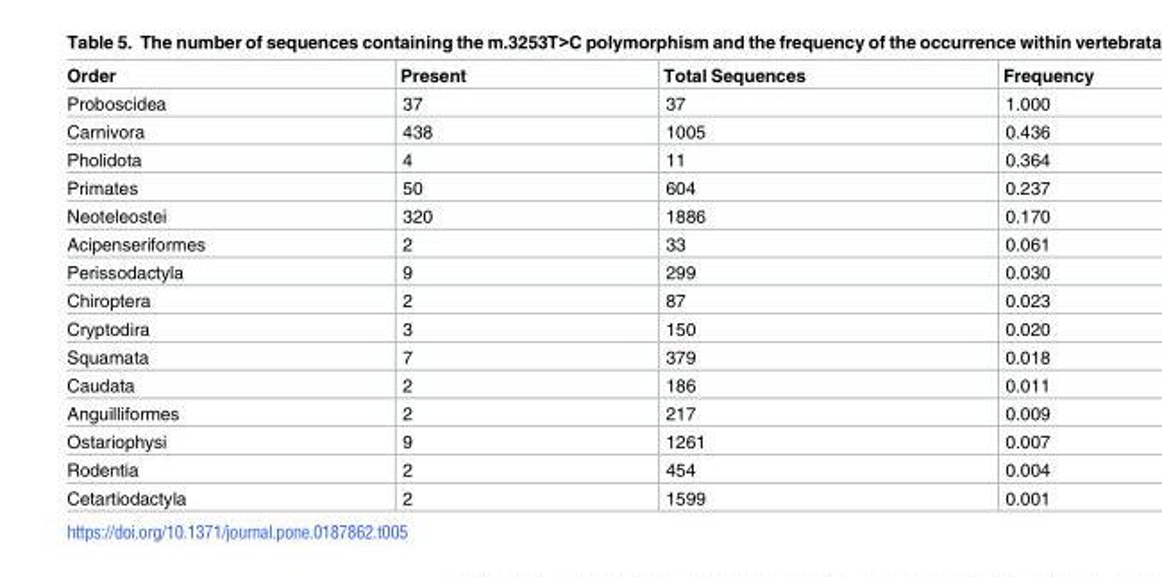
<table><thead><tr><td>Order</td><td>Present</td><td>Total Sequences</td><td>Frequency</td></tr></thead><tbody><tr><td>Proboscidea</td><td>37</td><td>37</td><td>1.000</td></tr><tr><td>Carnivora</td><td>438</td><td>1005</td><td>0.436</td></tr><tr><td>Pholidota</td><td>4</td><td>11</td><td>0.364</td></tr><tr><td>Primates</td><td>50</td><td>604</td><td>0.237</td></tr><tr><td>Neoteleostei</td><td>320</td><td>1886</td><td>0.170</td></tr><tr><td>Acipenseriformes</td><td>2</td><td>33</td><td>0.061</td></tr><tr><td>Perissodactyla</td><td>9</td><td>299</td><td>0.030</td></tr><tr><td>Chiroptera</td><td>2</td><td>87</td><td>0.023</td></tr><tr><td>Cryptodira</td><td>3</td><td>150</td><td>0.020</td></tr><tr><td>Squamata</td><td>7</td><td>379</td><td>0.018</td></tr><tr><td>Caudata</td><td>2</td><td>186</td><td>0.011</td></tr><tr><td>Anguilliformes</td><td>2</td><td>217</td><td>0.009</td></tr><tr><td>Ostariophysi</td><td>9</td><td>1261</td><td>0.007</td></tr><tr><td>Rodentia</td><td>2</td><td>454</td><td>0.004</td></tr><tr><td>Cetartiodactyla</td><td>2</td><td>1599</td><td>0.001</td></tr></tbody></table>